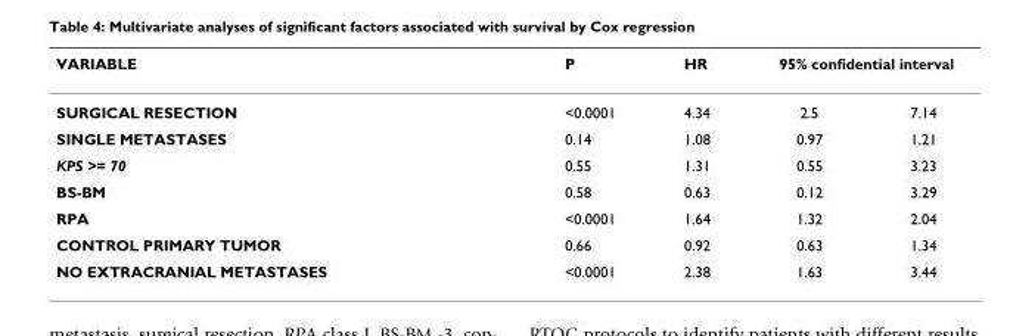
<table><thead><tr><td rowspan="2">VARIABLE SURGICAL RESECTION</td><td rowspan="2">P &lt;0.0001</td><td rowspan="2">HR 4.34</td><td colspan="2">95% confidential interval</td></tr><tr><td>2.5</td><td>7.14</td></tr></thead><tbody><tr><td>SINGLE METASTASES</td><td>0.14</td><td>1.08</td><td>0.97</td><td>1.21</td></tr><tr><td>KPS &gt;= 70</td><td>0.55</td><td>1.31</td><td>0.55</td><td>3.23</td></tr><tr><td>BS-BM</td><td>0.58</td><td>0.63</td><td>0.12</td><td>3.29</td></tr><tr><td>RPA</td><td>&lt;0.0001</td><td>1.64</td><td>1.32</td><td>2.04</td></tr><tr><td>CONTROL PRIMARY TUMOR</td><td>0.66</td><td>0.92</td><td>0.63</td><td>1.34</td></tr><tr><td>NO EXTRACRANIAL METASTASES</td><td>&lt;0.0001</td><td>2.38</td><td>1.63</td><td>3.44</td></tr></tbody></table>